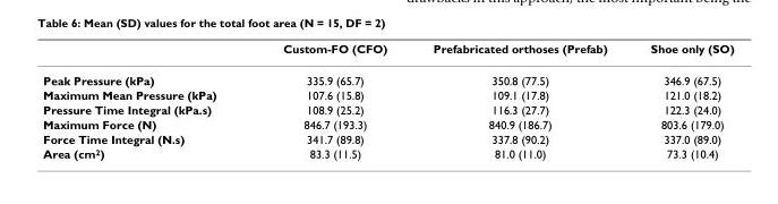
<table><thead><tr><td></td><td>Custom-FO (CFO)</td><td>Prefabricated orthoses (Prefab)</td><td>Shoe only (SO)</td></tr></thead><tbody><tr><td>Peak Pressure (kPa)</td><td>335.9 (65.7)</td><td>350.8 (77.5)</td><td>346.9 (67.5)</td></tr><tr><td>Maximum Mean Pressure (kPa)</td><td>107.6 (15.8)</td><td>109.1 (17.8)</td><td>121.0 (18.2)</td></tr><tr><td>Pressure Time Integral (kPa.s)</td><td>108.9 (25.2)</td><td>116.3 (27.7)</td><td>122.3 (24.0)</td></tr><tr><td>Maximum Force (N)</td><td>846.7 (193.3)</td><td>840.9 (186.7)</td><td>803.6 (179.0)</td></tr><tr><td>Force Time Integral (N.s)</td><td>341.7 (89.8)</td><td>337.8 (90.2)</td><td>337.0 (89.0)</td></tr><tr><td>Area (cm<sup>2</sup>)</td><td>83.3 (11.5)</td><td>81.0 (11.0)</td><td>73.3 (10.4)</td></tr></tbody></table>